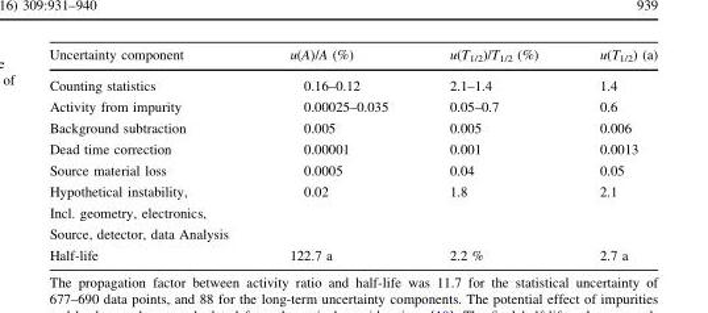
<table><thead><tr><td>Uncertainty component</td><td>u(A)/A (%)</td><td>u(T<sub>1/2</sub>)/T<sub>1/2</sub> (%)</td><td>u(T<sub>1/2</sub>) (a)</td></tr></thead><tbody><tr><td>Counting statistics</td><td>0.16–0.12</td><td>2.1–1.4</td><td>1.4</td></tr><tr><td>Activity from impurity</td><td>0.00025–0.035</td><td>0.05–0.7</td><td>0.6</td></tr><tr><td>Background subtraction</td><td>0.005</td><td>0.005</td><td>0.006</td></tr><tr><td>Dead time correction</td><td>0.00001</td><td>0.001</td><td>0.0013</td></tr><tr><td>Source material loss</td><td>0.0005</td><td>0.04</td><td>0.05</td></tr><tr><td>Hypothetical instability, Incl. geometry, electronics, Source, detector, data Analysis</td><td>0.02</td><td>1.8</td><td>2.1</td></tr><tr><td>Half-life</td><td>122.7 a</td><td>2.2 %</td><td>2.7 a</td></tr></tbody></table>